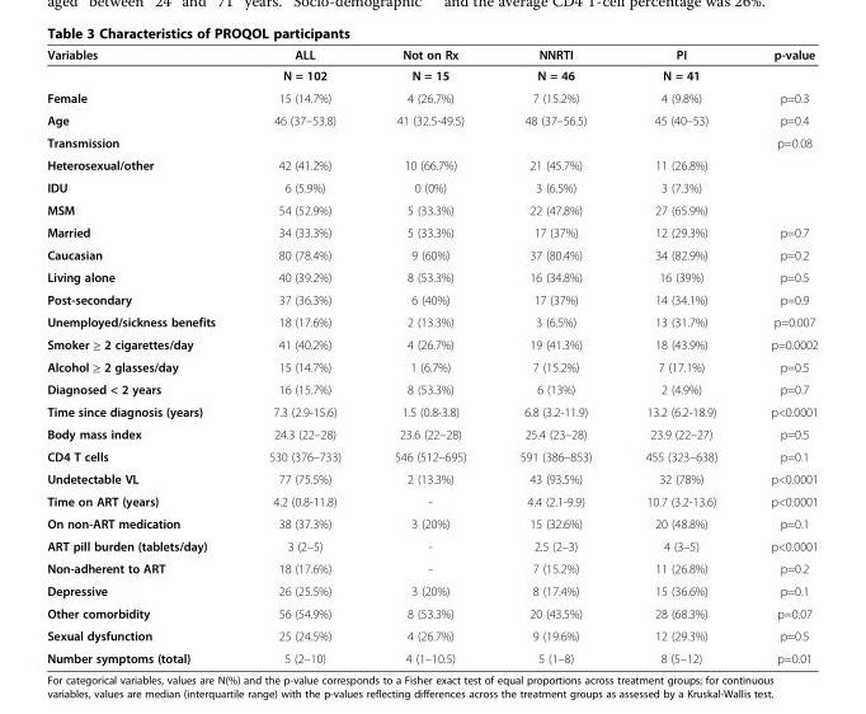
<table><thead><tr><td>Variables</td><td>ALL</td><td>Not on Rx</td><td>NNRTI</td><td>PI</td><td>p-value</td></tr></thead><tbody><tr><td></td><td>N = 102</td><td>N = 15</td><td>N = 46</td><td>N = 41</td><td></td></tr><tr><td>Female</td><td>15 (14.7%)</td><td>4 (26.7%)</td><td>7 (15.2%)</td><td>4 (9.8%)</td><td>p=0.3</td></tr><tr><td>Age</td><td>46 (37–53.8)</td><td>41 (32.5-49.5)</td><td>48 (37–56.5)</td><td>45 (40–53)</td><td>p=0.4</td></tr><tr><td>Transmission</td><td></td><td></td><td></td><td></td><td>p=0.08</td></tr><tr><td>Heterosexual/other</td><td>42 (41.2%)</td><td>10 (66.7%)</td><td>21 (45.7%)</td><td>11 (26.8%)</td><td></td></tr><tr><td>IDU</td><td>6 (5.9%)</td><td>0 (0%)</td><td>3 (6.5%)</td><td>3 (7.3%)</td><td></td></tr><tr><td>MSM</td><td>54 (52.9%)</td><td>5 (33.3%)</td><td>22 (47.8%)</td><td>27 (65.9%)</td><td></td></tr><tr><td>Married</td><td>34 (33.3%)</td><td>5 (33.3%)</td><td>17 (37%)</td><td>12 (29.3%)</td><td>p=0.7</td></tr><tr><td>Caucasian</td><td>80 (78.4%)</td><td>9 (60%)</td><td>37 (80.4%)</td><td>34 (82.9%)</td><td>p=0.2</td></tr><tr><td>Living alone</td><td>40 (39.2%)</td><td>8 (53.3%)</td><td>16 (34.8%)</td><td>16 (39%)</td><td>p=0.5</td></tr><tr><td>Post-secondary</td><td>37 (36.3%)</td><td>6 (40%)</td><td>17 (37%)</td><td>14 (34.1%)</td><td>p=0.9</td></tr><tr><td>Unemployed/sickness benefits</td><td>18 (17.6%)</td><td>2 (13.3%)</td><td>3 (6.5%)</td><td>13 (31.7%)</td><td>p=0.007</td></tr><tr><td>Smoker ≥ 2 cigarettes/day</td><td>41 (40.2%)</td><td>4 (26.7%)</td><td>19 (41.3%)</td><td>18 (43.9%)</td><td>p=0.0002</td></tr><tr><td>Alcohol ≥ 2 glasses/day</td><td>15 (14.7%)</td><td>1 (6.7%)</td><td>7 (15.2%)</td><td>7 (17.1%)</td><td>p=0.5</td></tr><tr><td>Diagnosed &lt; 2 years</td><td>16 (15.7%)</td><td>8 (53.3%)</td><td>6 (13%)</td><td>2 (4.9%)</td><td>p=0.7</td></tr><tr><td>Time since diagnosis (years)</td><td>7.3 (2.9-15.6)</td><td>1.5 (0.8-3.8)</td><td>6.8 (3.2-11.9)</td><td>13.2 (6.2-18.9)</td><td>p&lt;0.0001</td></tr><tr><td>Body mass index</td><td>24.3 (22–28)</td><td>23.6 (22–28)</td><td>25.4 (23–28)</td><td>23.9 (22–27)</td><td>p=0.5</td></tr><tr><td>CD4 T cells</td><td>530 (376–733)</td><td>546 (512–695)</td><td>591 (386–853)</td><td>455 (323–638)</td><td>p=0.1</td></tr><tr><td>Undetectable VL</td><td>77 (75.5%)</td><td>2 (13.3%)</td><td>43 (93.5%)</td><td>32 (78%)</td><td>p&lt;0.0001</td></tr><tr><td>Time on ART (years)</td><td>4.2 (0.8-11.8)</td><td>-</td><td>4.4 (2.1-9.9)</td><td>10.7 (3.2-13.6)</td><td>p&lt;0.0001</td></tr><tr><td>On non-ART medication</td><td>38 (37.3%)</td><td>3 (20%)</td><td>15 (32.6%)</td><td>20 (48.8%)</td><td>p=0.1</td></tr><tr><td>ART pill burden (tablets/day)</td><td>3 (2–5)</td><td>-</td><td>2.5 (2–3)</td><td>4 (3–5)</td><td>p&lt;0.0001</td></tr><tr><td>Non-adherent to ART</td><td>18 (17.6%)</td><td>-</td><td>7 (15.2%)</td><td>11 (26.8%)</td><td>p=0.2</td></tr><tr><td>Depressive</td><td>26 (25.5%)</td><td>3 (20%)</td><td>8 (17.4%)</td><td>15 (36.6%)</td><td>p=0.1</td></tr><tr><td>Other comorbidity</td><td>56 (54.9%)</td><td>8 (53.3%)</td><td>20 (43.5%)</td><td>28 (68.3%)</td><td>p=0.07</td></tr><tr><td>Sexual dysfunction</td><td>25 (24.5%)</td><td>4 (26.7%)</td><td>9 (19.6%)</td><td>12 (29.3%)</td><td>p=0.5</td></tr><tr><td>Number symptoms (total)</td><td>5 (2–10)</td><td>4 (1–10.5)</td><td>5 (1–8)</td><td>8 (5–12)</td><td>p=0.01</td></tr></tbody></table>